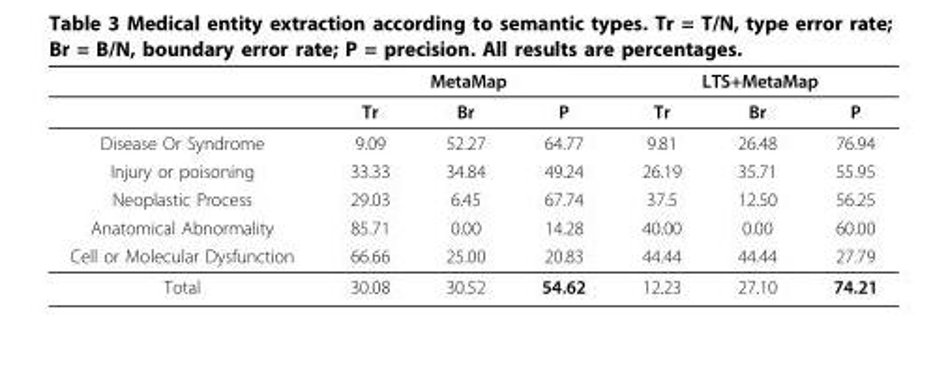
<table><thead><tr><td rowspan="2"></td><td colspan="3">MetaMap</td><td colspan="3">LTS+MetaMap</td></tr><tr><td>Tr</td><td>Br</td><td>P</td><td>Tr</td><td>Br</td><td>P</td></tr></thead><tbody><tr><td>Disease Or Syndrome</td><td>9.09</td><td>52.27</td><td>64.77</td><td>9.81</td><td>26.48</td><td>76.94</td></tr><tr><td>Injury or poisoning</td><td>33.33</td><td>34.84</td><td>49.24</td><td>26.19</td><td>35.71</td><td>55.95</td></tr><tr><td>Neoplastic Process</td><td>29.03</td><td>6.45</td><td>67.74</td><td>37.5</td><td>12.50</td><td>56.25</td></tr><tr><td>Anatomical Abnormality</td><td>85.71</td><td>0.00</td><td>14.28</td><td>40.00</td><td>0.00</td><td>60.00</td></tr><tr><td>Cell or Molecular Dysfunction</td><td>66.66</td><td>25.00</td><td>20.83</td><td>44.44</td><td>44.44</td><td>27.79</td></tr><tr><td>Total</td><td>30.08</td><td>30.52</td><td>54.62</td><td>12.23</td><td>27.10</td><td>74.21</td></tr></tbody></table>